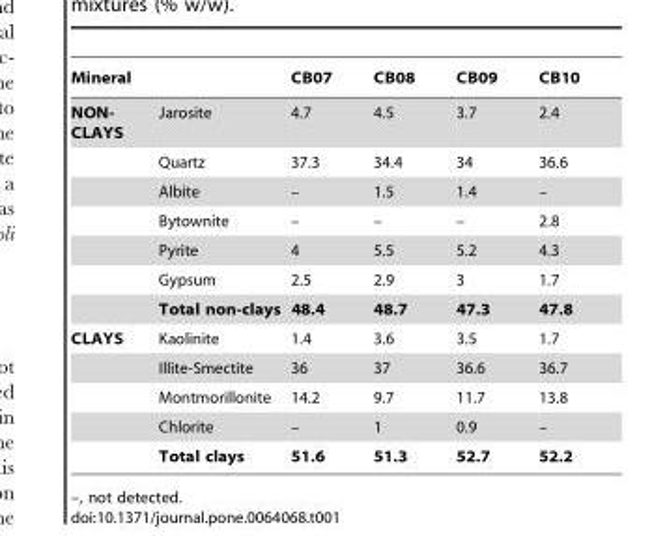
<table><thead><tr><td colspan="2">Mineral</td><td rowspan="2">CB07 4.7</td><td rowspan="2">CB08 4.5</td><td rowspan="2">CB09 3.7</td><td rowspan="2">CB10 2.4</td></tr><tr><td>NON- CLAYS</td><td>Jarosite</td></tr></thead><tbody><tr><td></td><td>Quartz</td><td>37.3</td><td>34.4</td><td>34</td><td>36.6</td></tr><tr><td></td><td>Albite</td><td>–</td><td>1.5</td><td>1.4</td><td>–</td></tr><tr><td></td><td>Bytownite</td><td>–</td><td>–</td><td>–</td><td>2.8</td></tr><tr><td></td><td>Pyrite</td><td>4</td><td>5.5</td><td>5.2</td><td>4.3</td></tr><tr><td></td><td>Gypsum</td><td>2.5</td><td>2.9</td><td>3</td><td>1.7</td></tr><tr><td></td><td>Total non-clays</td><td>48.4</td><td>48.7</td><td>47.3</td><td>47.8</td></tr><tr><td rowspan="5">CLAYS</td><td>Kaolinite</td><td>1.4</td><td>3.6</td><td>3.5</td><td>1.7</td></tr><tr><td>Illite-Smectite</td><td>36</td><td>37</td><td>36.6</td><td>36.7</td></tr><tr><td>Montmorillonite</td><td>14.2</td><td>9.7</td><td>11.7</td><td>13.8</td></tr><tr><td>Chlorite</td><td>–</td><td>1</td><td>0.9</td><td>–</td></tr><tr><td>Total clays</td><td>51.6</td><td>51.3</td><td>52.7</td><td>52.2</td></tr></tbody></table>